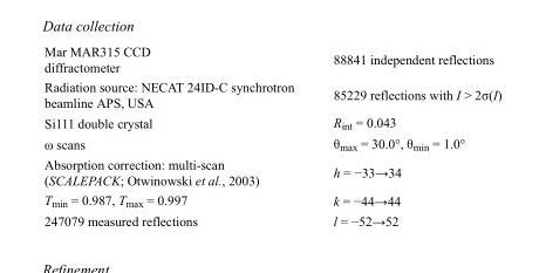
<table><tbody><tr><td>Mar MAR315 CCD diffractometer</td><td>88841 independent reflections</td></tr><tr><td>Radiation source: NECAT 24ID-C synchrotron beamline APS, USA</td><td>85229 reflections with I &gt; 2σ(I)</td></tr><tr><td>Si111 double crystal</td><td>R<sub>int</sub> = 0.043</td></tr><tr><td>ω scans</td><td>θ<sub>max</sub> = 30.0°, θ<sub>min</sub> = 1.0°</td></tr><tr><td>Absorption correction: multi-scan (SCALEPACK; Otwinowski et al., 2003)</td><td>h = −33→34</td></tr><tr><td>T<sub>min</sub> = 0.987, T<sub>max</sub> = 0.997</td><td>k = −44→44</td></tr><tr><td>247079 measured reflections</td><td>l = −52→52</td></tr></tbody></table>